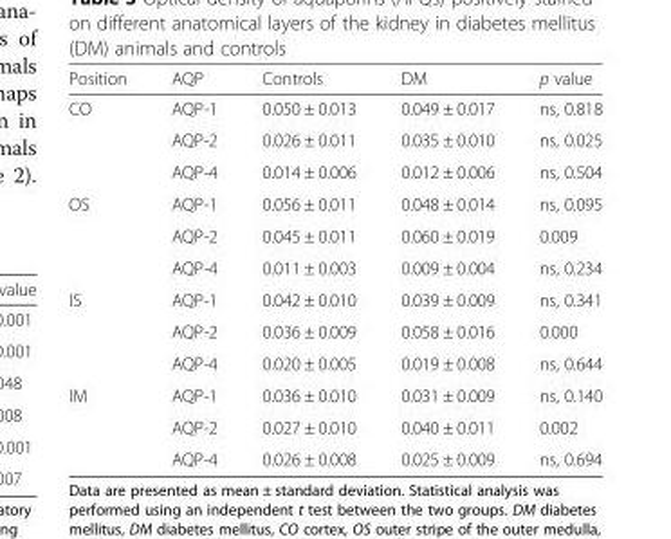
<table><thead><tr><td>Position</td><td>AQP</td><td>Controls</td><td>DM</td><td>p value</td></tr></thead><tbody><tr><td rowspan="3">CO</td><td>AQP-1</td><td>0.050 ± 0.013</td><td>0.049 ± 0.017</td><td>ns, 0.818</td></tr><tr><td>AQP-2</td><td>0.026 ± 0.011</td><td>0.035 ± 0.010</td><td>ns, 0.025</td></tr><tr><td>AQP-4</td><td>0.014 ± 0.006</td><td>0.012 ± 0.006</td><td>ns, 0.504</td></tr><tr><td rowspan="3">OS</td><td>AQP-1</td><td>0.056 ± 0.011</td><td>0.048 ± 0.014</td><td>ns, 0.095</td></tr><tr><td>AQP-2</td><td>0.045 ± 0.011</td><td>0.060 ± 0.019</td><td>0.009</td></tr><tr><td>AQP-4</td><td>0.011 ± 0.003</td><td>0.009 ± 0.004</td><td>ns, 0.234</td></tr><tr><td rowspan="3">IS</td><td>AQP-1</td><td>0.042 ± 0.010</td><td>0.039 ± 0.009</td><td>ns, 0.341</td></tr><tr><td>AQP-2</td><td>0.036 ± 0.009</td><td>0.058 ± 0.016</td><td>0.000</td></tr><tr><td>AQP-4</td><td>0.020 ± 0.005</td><td>0.019 ± 0.008</td><td>ns, 0.644</td></tr><tr><td rowspan="3">IM</td><td>AQP-1</td><td>0.036 ± 0.010</td><td>0.031 ± 0.009</td><td>ns, 0.140</td></tr><tr><td>AQP-2</td><td>0.027 ± 0.010</td><td>0.040 ± 0.011</td><td>0.002</td></tr><tr><td>AQP-4</td><td>0.026 ± 0.008</td><td>0.025 ± 0.009</td><td>ns, 0.694</td></tr></tbody></table>